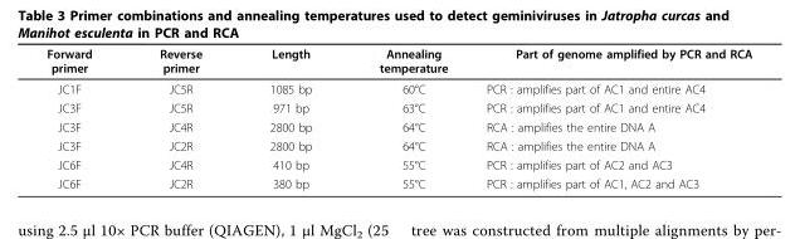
<table><thead><tr><td>Forward primer</td><td>Reverse primer</td><td>Length</td><td>Annealing temperature</td><td>Part of genome amplified by PCR and RCA</td></tr></thead><tbody><tr><td>JC1F</td><td>JC5R</td><td>1085 bp</td><td>60°C</td><td>PCR : amplifies part of AC1 and entire AC4</td></tr><tr><td>JC3F</td><td>JC5R</td><td>971 bp</td><td>63°C</td><td>PCR : amplifies part of AC1 and entire AC4</td></tr><tr><td>JC3F</td><td>JC4R</td><td>2800 bp</td><td>64°C</td><td>RCA : amplifies the entire DNA A</td></tr><tr><td>JC3F</td><td>JC2R</td><td>2800 bp</td><td>64°C</td><td>RCA : amplifies the entire DNA A</td></tr><tr><td>JC6F</td><td>JC4R</td><td>410 bp</td><td>55°C</td><td>PCR : amplifies part of AC2 and AC3</td></tr><tr><td>JC6F</td><td>JC2R</td><td>380 bp</td><td>55°C</td><td>PCR : amplifies part of AC1, AC2 and AC3</td></tr></tbody></table>